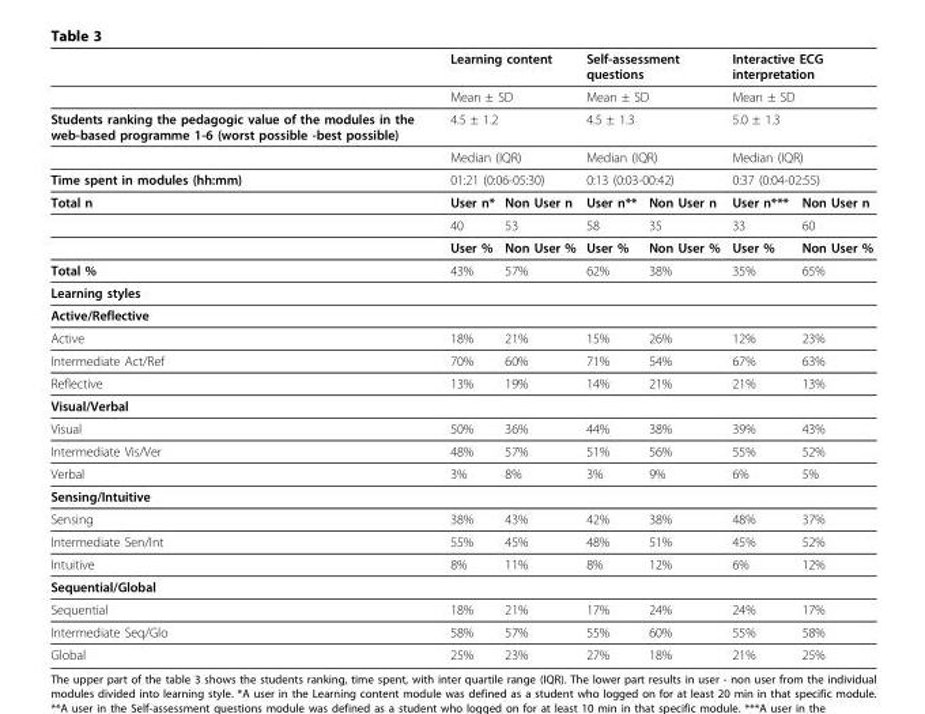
<table><thead><tr><td></td><td colspan="2">Learning content</td><td colspan="2">Self-assessment questions</td><td colspan="2">Interactive ECG interpretation</td></tr></thead><tbody><tr><td></td><td colspan="2">Mean ± SD</td><td colspan="2">Mean ± SD</td><td colspan="2">Mean ± SD</td></tr><tr><td rowspan="2">Students ranking the pedagogic value of the modules in the web-based programme 1-6 (worst possible -best possible)</td><td colspan="2">4.5 ± 1.2</td><td colspan="2">4.5 ± 1.3</td><td colspan="2">5.0 ± 1.3</td></tr><tr><td colspan="2">Median (IQR)</td><td colspan="2">Median (IQR)</td><td colspan="2">Median (IQR)</td></tr><tr><td>Time spent in modules (hh:mm)</td><td colspan="2">01:21 (0:06-05:30)</td><td colspan="2">0:13 (0:03-00:42)</td><td colspan="2">0:37 (0:04-02:55)</td></tr><tr><td rowspan="3">Total n</td><td>User n*</td><td>Non User n</td><td>User n**</td><td>Non User n</td><td>User n***</td><td>Non User n</td></tr><tr><td>40</td><td>53</td><td>58</td><td>35</td><td>33</td><td>60</td></tr><tr><td>User %</td><td>Non User %</td><td>User %</td><td>Non User %</td><td>User %</td><td>Non User %</td></tr><tr><td>Total %</td><td>43%</td><td>57%</td><td>62%</td><td>38%</td><td>35%</td><td>65%</td></tr><tr><td colspan="7">Learning styles</td></tr><tr><td colspan="7">Active/Reflective</td></tr><tr><td>Active</td><td>18%</td><td>21%</td><td>15%</td><td>26%</td><td>12%</td><td>23%</td></tr><tr><td>Intermediate Act/Ref</td><td>70%</td><td>60%</td><td>71%</td><td>54%</td><td>67%</td><td>63%</td></tr><tr><td>Reflective</td><td>13%</td><td>19%</td><td>14%</td><td>21%</td><td>21%</td><td>13%</td></tr><tr><td colspan="7">Visual/Verbal</td></tr><tr><td>Visual</td><td>50%</td><td>36%</td><td>44%</td><td>38%</td><td>39%</td><td>43%</td></tr><tr><td>Intermediate Vis/Ver</td><td>48%</td><td>57%</td><td>51%</td><td>56%</td><td>55%</td><td>52%</td></tr><tr><td>Verbal</td><td>3%</td><td>8%</td><td>3%</td><td>9%</td><td>6%</td><td>5%</td></tr><tr><td colspan="7">Sensing/Intuitive</td></tr><tr><td>Sensing</td><td>38%</td><td>43%</td><td>42%</td><td>38%</td><td>48%</td><td>37%</td></tr><tr><td>Intermediate Sen/Int</td><td>55%</td><td>45%</td><td>48%</td><td>51%</td><td>45%</td><td>52%</td></tr><tr><td>Intuitive</td><td>8%</td><td>11%</td><td>8%</td><td>12%</td><td>6%</td><td>12%</td></tr><tr><td colspan="7">Sequential/Global</td></tr><tr><td>Sequential</td><td>18%</td><td>21%</td><td>17%</td><td>24%</td><td>24%</td><td>17%</td></tr><tr><td>Intermediate Seq/Glo</td><td>58%</td><td>57%</td><td>55%</td><td>60%</td><td>55%</td><td>58%</td></tr><tr><td>Global</td><td>25%</td><td>23%</td><td>27%</td><td>18%</td><td>21%</td><td>25%</td></tr></tbody></table>